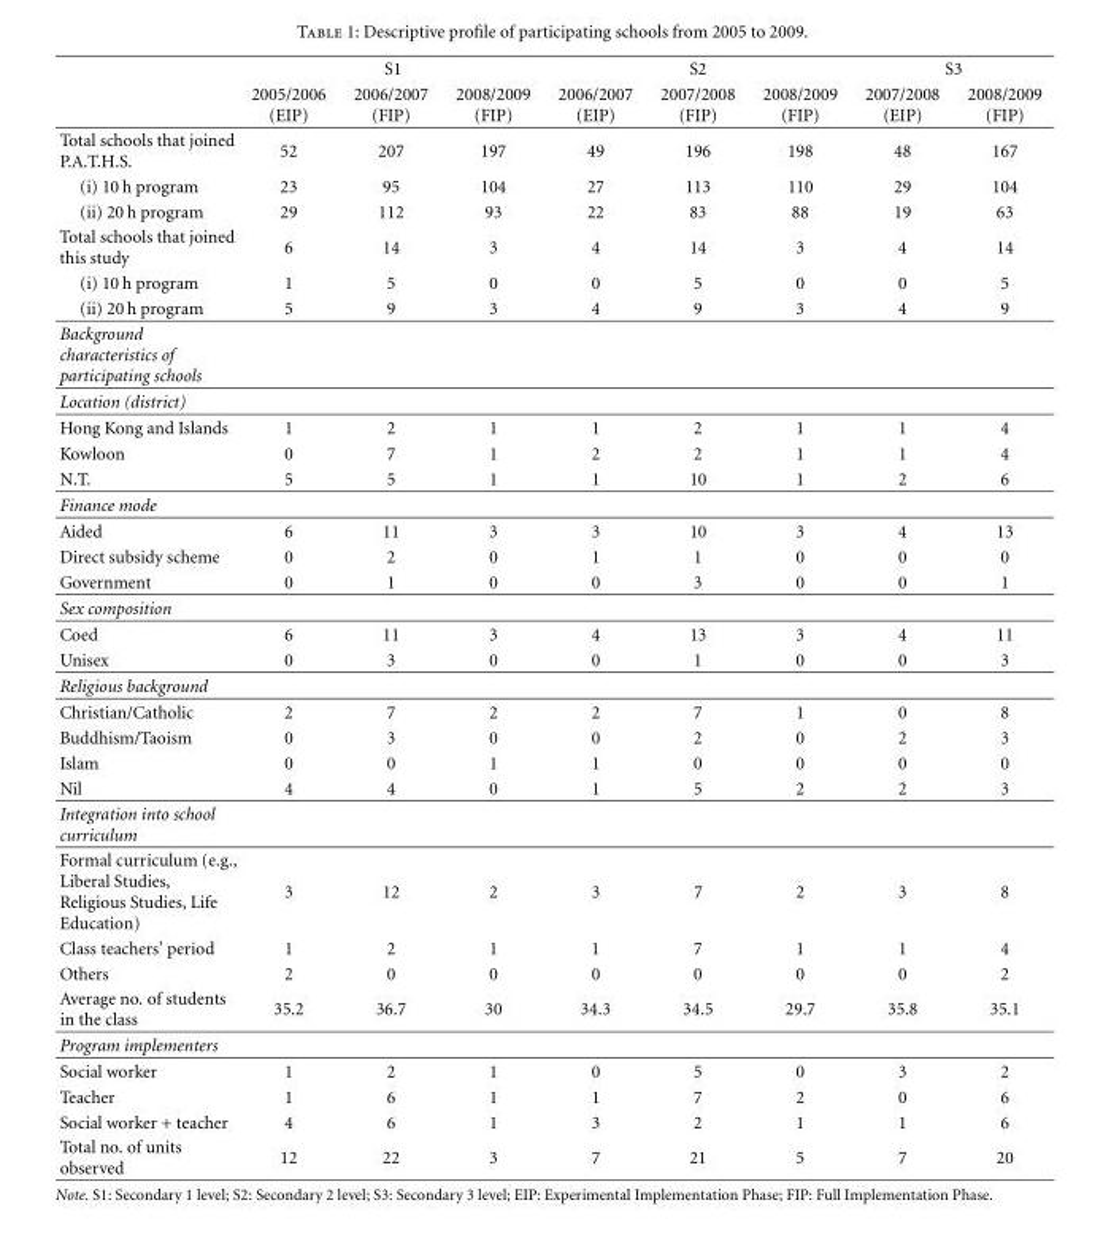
<table><thead><tr><td rowspan="2"></td><td colspan="3">S1</td><td colspan="3">S2</td><td colspan="2">S3</td></tr><tr><td>2005/2006 (EIP)</td><td>2006/2007 (FIP)</td><td>2008/2009 (FIP)</td><td>2006/2007 (EIP)</td><td>2007/2008 (FIP)</td><td>2008/2009 (FIP)</td><td>2007/2008 (EIP)</td><td>2008/2009 (FIP)</td></tr></thead><tbody><tr><td>Total schools that joined P.A.T.H.S.</td><td>52</td><td>207</td><td>197</td><td>49</td><td>196</td><td>198</td><td>48</td><td>167</td></tr><tr><td>(i) 10 h program</td><td>23</td><td>95</td><td>104</td><td>27</td><td>113</td><td>110</td><td>29</td><td>104</td></tr><tr><td>(ii) 20 h program</td><td>29</td><td>112</td><td>93</td><td>22</td><td>83</td><td>88</td><td>19</td><td>63</td></tr><tr><td>Total schools that joined this study</td><td>6</td><td>14</td><td>3</td><td>4</td><td>14</td><td>3</td><td>4</td><td>14</td></tr><tr><td>(i) 10 h program</td><td>1</td><td>5</td><td>0</td><td>0</td><td>5</td><td>0</td><td>0</td><td>5</td></tr><tr><td>(ii) 20 h program</td><td>5</td><td>9</td><td>3</td><td>4</td><td>9</td><td>3</td><td>4</td><td>9</td></tr><tr><td colspan="9">Background characteristics of participating schools</td></tr><tr><td colspan="9">Location (district)</td></tr><tr><td>Hong Kong and Islands</td><td>1</td><td>2</td><td>1</td><td>1</td><td>2</td><td>1</td><td>1</td><td>4</td></tr><tr><td>Kowloon</td><td>0</td><td>7</td><td>1</td><td>2</td><td>2</td><td>1</td><td>1</td><td>4</td></tr><tr><td>N.T.</td><td>5</td><td>5</td><td>1</td><td>1</td><td>10</td><td>1</td><td>2</td><td>6</td></tr><tr><td colspan="9">Finance mode</td></tr><tr><td>Aided</td><td>6</td><td>11</td><td>3</td><td>3</td><td>10</td><td>3</td><td>4</td><td>13</td></tr><tr><td>Direct subsidy scheme</td><td>0</td><td>2</td><td>0</td><td>1</td><td>1</td><td>0</td><td>0</td><td>0</td></tr><tr><td>Government</td><td>0</td><td>1</td><td>0</td><td>0</td><td>3</td><td>0</td><td>0</td><td>1</td></tr><tr><td colspan="9">Sex composition</td></tr><tr><td>Coed</td><td>6</td><td>11</td><td>3</td><td>4</td><td>13</td><td>3</td><td>4</td><td>11</td></tr><tr><td>Unisex</td><td>0</td><td>3</td><td>0</td><td>0</td><td>1</td><td>0</td><td>0</td><td>3</td></tr><tr><td colspan="9">Religious background</td></tr><tr><td>Christian/Catholic</td><td>2</td><td>7</td><td>2</td><td>2</td><td>7</td><td>1</td><td>0</td><td>8</td></tr><tr><td>Buddhism/Taoism</td><td>0</td><td>3</td><td>0</td><td>0</td><td>2</td><td>0</td><td>2</td><td>3</td></tr><tr><td>Islam</td><td>0</td><td>0</td><td>1</td><td>1</td><td>0</td><td>0</td><td>0</td><td>0</td></tr><tr><td>Nil</td><td>4</td><td>4</td><td>0</td><td>1</td><td>5</td><td>2</td><td>2</td><td>3</td></tr><tr><td colspan="9">Integration into school curriculum</td></tr><tr><td>Formal curriculum (e.g., Liberal Studies, Religious Studies, Life Education)</td><td>3</td><td>12</td><td>2</td><td>3</td><td>7</td><td>2</td><td>3</td><td>8</td></tr><tr><td>Class teachers’ period</td><td>1</td><td>2</td><td>1</td><td>1</td><td>7</td><td>1</td><td>1</td><td>4</td></tr><tr><td>Others</td><td>2</td><td>0</td><td>0</td><td>0</td><td>0</td><td>0</td><td>0</td><td>2</td></tr><tr><td>Average no. of students in the class</td><td>35.2</td><td>36.7</td><td>30</td><td>34.3</td><td>34.5</td><td>29.7</td><td>35.8</td><td>35.1</td></tr><tr><td colspan="9">Program implementers</td></tr><tr><td>Social worker</td><td>1</td><td>2</td><td>1</td><td>0</td><td>5</td><td>0</td><td>3</td><td>2</td></tr><tr><td>Teacher</td><td>1</td><td>6</td><td>1</td><td>1</td><td>7</td><td>2</td><td>0</td><td>6</td></tr><tr><td>Social worker + teacher</td><td>4</td><td>6</td><td>1</td><td>3</td><td>2</td><td>1</td><td>1</td><td>6</td></tr><tr><td>Total no. of units observed</td><td>12</td><td>22</td><td>3</td><td>7</td><td>21</td><td>5</td><td>7</td><td>20</td></tr></tbody></table>